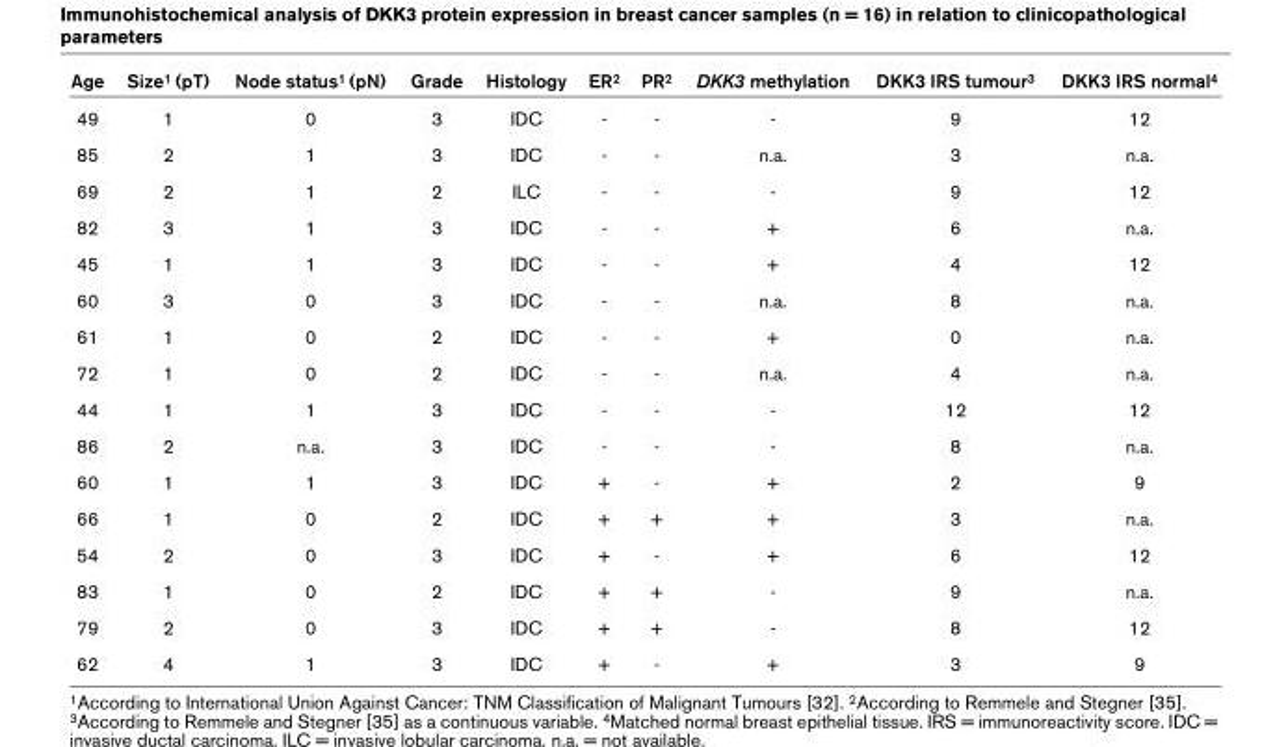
<table><thead><tr><td>Age</td><td>Size<sup>1</sup> (pT)</td><td>Node status<sup>1</sup> (pN)</td><td>Grade</td><td>Histology</td><td>ER<sup>2</sup></td><td>PR<sup>2</sup></td><td>DKK3 methylation</td><td>DKK3 IRS tumour<sup>3</sup></td><td>DKK3 IRS normal<sup>4</sup></td></tr></thead><tbody><tr><td>49</td><td>1</td><td>0</td><td>3</td><td>IDC</td><td>-</td><td>-</td><td>-</td><td>9</td><td>12</td></tr><tr><td>85</td><td>2</td><td>1</td><td>3</td><td>IDC</td><td>-</td><td>-</td><td>n.a.</td><td>3</td><td>n.a.</td></tr><tr><td>69</td><td>2</td><td>1</td><td>2</td><td>ILC</td><td>-</td><td>-</td><td>-</td><td>9</td><td>12</td></tr><tr><td>82</td><td>3</td><td>1</td><td>3</td><td>IDC</td><td>-</td><td>-</td><td>+</td><td>6</td><td>n.a.</td></tr><tr><td>45</td><td>1</td><td>1</td><td>3</td><td>IDC</td><td>-</td><td>-</td><td>+</td><td>4</td><td>12</td></tr><tr><td>60</td><td>3</td><td>0</td><td>3</td><td>IDC</td><td>-</td><td>-</td><td>n.a.</td><td>8</td><td>n.a.</td></tr><tr><td>61</td><td>1</td><td>0</td><td>2</td><td>IDC</td><td>-</td><td>-</td><td>+</td><td>0</td><td>n.a.</td></tr><tr><td>72</td><td>1</td><td>0</td><td>2</td><td>IDC</td><td>-</td><td>-</td><td>n.a.</td><td>4</td><td>n.a.</td></tr><tr><td>44</td><td>1</td><td>1</td><td>3</td><td>IDC</td><td>-</td><td>-</td><td>-</td><td>12</td><td>12</td></tr><tr><td>86</td><td>2</td><td>n.a.</td><td>3</td><td>IDC</td><td>-</td><td>-</td><td>-</td><td>8</td><td>n.a.</td></tr><tr><td>60</td><td>1</td><td>1</td><td>3</td><td>IDC</td><td>+</td><td>-</td><td>+</td><td>2</td><td>9</td></tr><tr><td>66</td><td>1</td><td>0</td><td>2</td><td>IDC</td><td>+</td><td>+</td><td>+</td><td>3</td><td>n.a.</td></tr><tr><td>54</td><td>2</td><td>0</td><td>3</td><td>IDC</td><td>+</td><td>-</td><td>+</td><td>6</td><td>12</td></tr><tr><td>83</td><td>1</td><td>0</td><td>2</td><td>IDC</td><td>+</td><td>+</td><td>-</td><td>9</td><td>n.a.</td></tr><tr><td>79</td><td>2</td><td>0</td><td>3</td><td>IDC</td><td>+</td><td>+</td><td>-</td><td>8</td><td>12</td></tr><tr><td>62</td><td>4</td><td>1</td><td>3</td><td>IDC</td><td>+</td><td>-</td><td>+</td><td>3</td><td>9</td></tr></tbody></table>